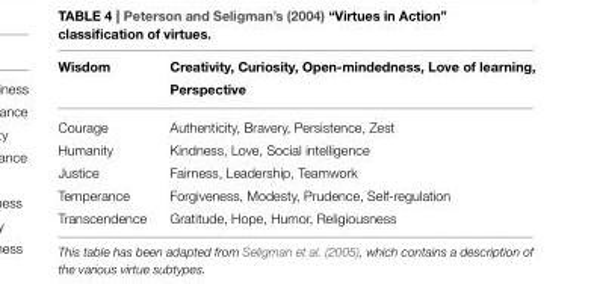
<table><thead><tr><td rowspan="2">Wisdom</td><td rowspan="2">Creativity, Curiosity, Open-mindedness, Love of learning, Perspective</td></tr><tr></tr></thead><tbody><tr><td>Courage</td><td>Authenticity, Bravery, Persistence, Zest</td></tr><tr><td>Humanity</td><td>Kindness, Love, Social intelligence</td></tr><tr><td>Justice</td><td>Fairness, Leadership, Teamwork</td></tr><tr><td>Temperance</td><td>Forgiveness, Modesty, Prudence, Self-regulation</td></tr><tr><td>Transcendence</td><td>Gratitude, Hope, Humor, Religiousness</td></tr></tbody></table>